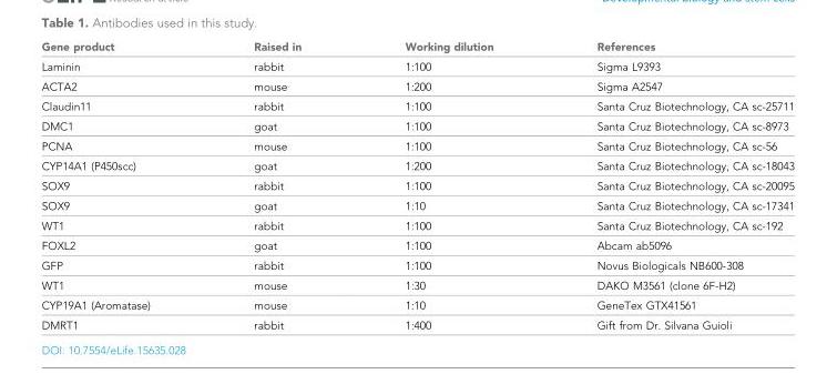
<table><thead><tr><td>Gene product</td><td>Raised in</td><td>Working dilution</td><td>References</td></tr></thead><tbody><tr><td>Laminin</td><td>rabbit</td><td>1:100</td><td>Sigma L9393</td></tr><tr><td>ACTA2</td><td>mouse</td><td>1:200</td><td>Sigma A2547</td></tr><tr><td>Claudin11</td><td>rabbit</td><td>1:100</td><td>Santa Cruz Biotechnology, CA sc-25711</td></tr><tr><td>DMC1</td><td>goat</td><td>1:100</td><td>Santa Cruz Biotechnology, CA sc-8973</td></tr><tr><td>PCNA</td><td>mouse</td><td>1:100</td><td>Santa Cruz Biotechnology, CA sc-56</td></tr><tr><td>CYP14A1 (P450scc)</td><td>goat</td><td>1:200</td><td>Santa Cruz Biotechnology, CA sc-18043</td></tr><tr><td>SOX9</td><td>rabbit</td><td>1:100</td><td>Santa Cruz Biotechnology, CA sc-20095</td></tr><tr><td>SOX9</td><td>goat</td><td>1:10</td><td>Santa Cruz Biotechnology, CA sc-17341</td></tr><tr><td>WT1</td><td>rabbit</td><td>1:100</td><td>Santa Cruz Biotechnology, CA sc-192</td></tr><tr><td>FOXL2</td><td>goat</td><td>1:100</td><td>Abcam ab5096</td></tr><tr><td>GFP</td><td>rabbit</td><td>1:100</td><td>Novus Biologicals NB600-308</td></tr><tr><td>WT1</td><td>mouse</td><td>1:30</td><td>DAKO M3561 (clone 6F-H2)</td></tr><tr><td>CYP19A1 (Aromatase)</td><td>mouse</td><td>1:10</td><td>GeneTex GTX41561</td></tr><tr><td>DMRT1</td><td>rabbit</td><td>1:400</td><td>Gift from Dr. Silvana Guioli</td></tr></tbody></table>